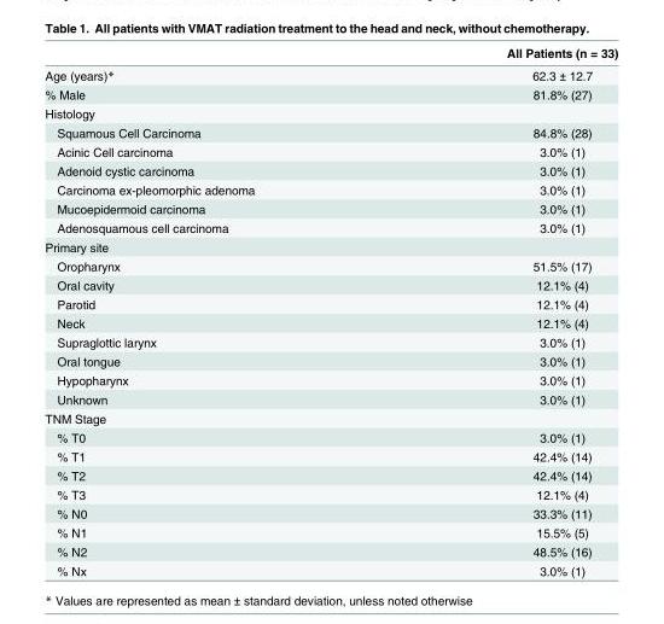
<table><thead><tr><td></td><td>All Patients (n = 33)</td></tr></thead><tbody><tr><td>Age (years)*</td><td>62.3 ± 12.7</td></tr><tr><td>% Male</td><td>81.8% (27)</td></tr><tr><td colspan="2">Histology</td></tr><tr><td>Squamous Cell Carcinoma</td><td>84.8% (28)</td></tr><tr><td>Acinic Cell carcinoma</td><td>3.0% (1)</td></tr><tr><td>Adenoid cystic carcinoma</td><td>3.0% (1)</td></tr><tr><td>Carcinoma ex-pleomorphic adenoma</td><td>3.0% (1)</td></tr><tr><td>Mucoepidermoid carcinoma</td><td>3.0% (1)</td></tr><tr><td>Adenosquamous cell carcinoma</td><td>3.0% (1)</td></tr><tr><td colspan="2">Primary site</td></tr><tr><td>Oropharynx</td><td>51.5% (17)</td></tr><tr><td>Oral cavity</td><td>12.1% (4)</td></tr><tr><td>Parotid</td><td>12.1% (4)</td></tr><tr><td>Neck</td><td>12.1% (4)</td></tr><tr><td>Supraglottic larynx</td><td>3.0% (1)</td></tr><tr><td>Oral tongue</td><td>3.0% (1)</td></tr><tr><td>Hypopharynx</td><td>3.0% (1)</td></tr><tr><td>Unknown</td><td>3.0% (1)</td></tr><tr><td colspan="2">TNM Stage</td></tr><tr><td>% T0</td><td>3.0% (1)</td></tr><tr><td>% T1</td><td>42.4% (14)</td></tr><tr><td>% T2</td><td>42.4% (14)</td></tr><tr><td>% T3</td><td>12.1% (4)</td></tr><tr><td>% N0</td><td>33.3% (11)</td></tr><tr><td>% N1</td><td>15.5% (5)</td></tr><tr><td>% N2</td><td>48.5% (16)</td></tr><tr><td>% Nx</td><td>3.0% (1)</td></tr></tbody></table>